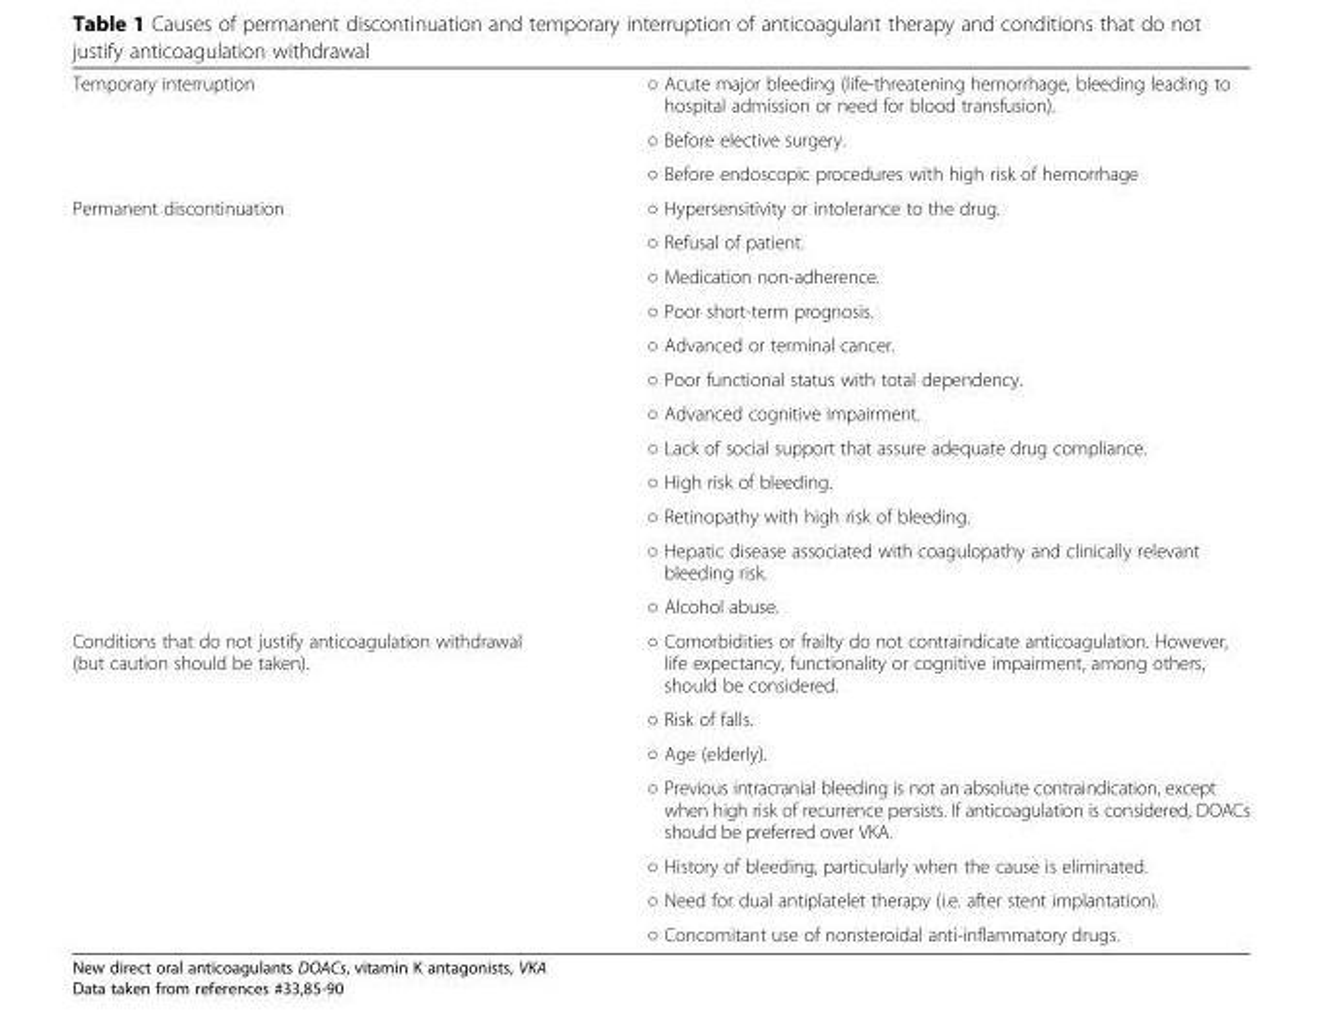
<table><tbody><tr><td rowspan="3">Temporary interruption</td><td>○ Acute major bleeding (life-threatening hemorrhage, bleeding leading to hospital admission or need for blood transfusion).</td></tr><tr><td>○ Before elective surgery.</td></tr><tr><td>○ Before endoscopic procedures with high risk of hemorrhage</td></tr><tr><td rowspan="12">Permanent discontinuation</td><td>○ Hypersensitivity or intolerance to the drug.</td></tr><tr><td>○ Refusal of patient.</td></tr><tr><td>○ Medication non-adherence.</td></tr><tr><td>○ Poor short-term prognosis.</td></tr><tr><td>○ Advanced or terminal cancer.</td></tr><tr><td>○ Poor functional status with total dependency.</td></tr><tr><td>○ Advanced cognitive impairment.</td></tr><tr><td>○ Lack of social support that assure adequate drug compliance.</td></tr><tr><td>○ High risk of bleeding.</td></tr><tr><td>○ Retinopathy with high risk of bleeding.</td></tr><tr><td>○ Hepatic disease associated with coagulopathy and clinically relevant bleeding risk.</td></tr><tr><td>○ Alcohol abuse.</td></tr><tr><td rowspan="7">Conditions that do not justify anticoagulation withdrawal (but caution should be taken).</td><td>○ Comorbidities or frailty do not contraindicate anticoagulation. However, life expectancy, functionality or cognitive impairment, among others, should be considered.</td></tr><tr><td>○ Risk of falls.</td></tr><tr><td>○ Age (elderly).</td></tr><tr><td>○ Previous intracranial bleeding is not an absolute contraindication, except when high risk of recurrence persists. If anticoagulation is considered, DOACs should be preferred over VKA.</td></tr><tr><td>○ History of bleeding, particularly when the cause is eliminated.</td></tr><tr><td>○ Need for dual antiplatelet therapy (i.e. after stent implantation).</td></tr><tr><td>○ Concomitant use of nonsteroidal anti-inflammatory drugs.</td></tr></tbody></table>